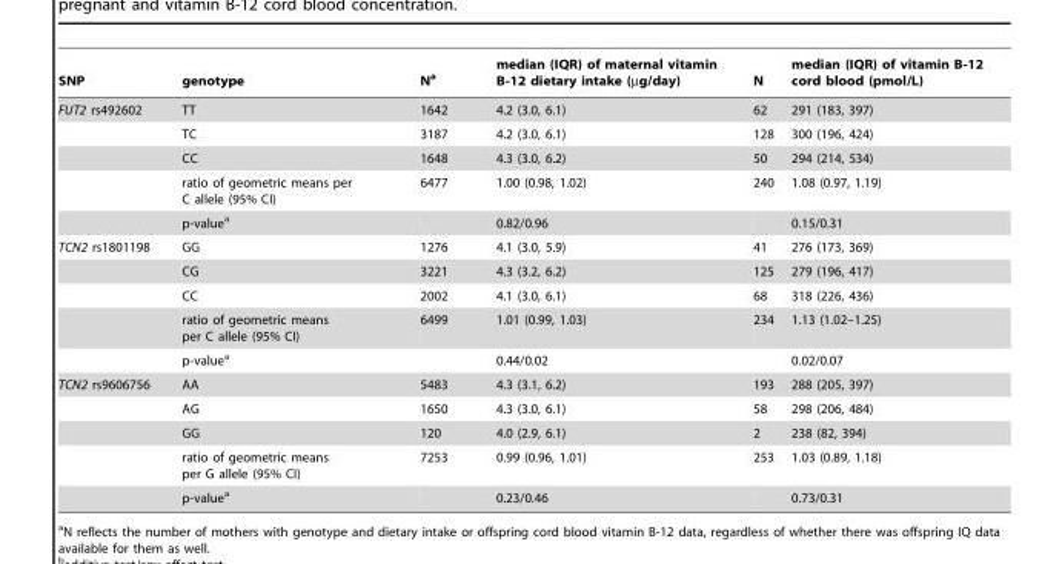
<table><thead><tr><td>SNP</td><td>genotype</td><td>N<sup>a</sup></td><td>median (IQR) of maternal vitamin B-12 dietary intake (µg/day)</td><td>N</td><td>median (IQR) of vitamin B-12 cord blood (pmol/L)</td></tr></thead><tbody><tr><td rowspan="5">FUT2 rs492602</td><td>TT</td><td>1642</td><td>4.2 (3.0, 6.1)</td><td>62</td><td>291 (183, 397)</td></tr><tr><td>TC</td><td>3187</td><td>4.2 (3.0, 6.1)</td><td>128</td><td>300 (196, 424)</td></tr><tr><td>CC</td><td>1648</td><td>4.3 (3.0, 6.2)</td><td>50</td><td>294 (214, 534)</td></tr><tr><td>ratio of geometric means per C allele (95% CI)</td><td>6477</td><td>1.00 (0.98, 1.02)</td><td>240</td><td>1.08 (0.97, 1.19)</td></tr><tr><td>p-value<sup>a</sup></td><td></td><td>0.82/0.96</td><td></td><td>0.15/0.31</td></tr><tr><td rowspan="5">TCN2 rs1801198</td><td>GG</td><td>1276</td><td>4.1 (3.0, 5.9)</td><td>41</td><td>276 (173, 369)</td></tr><tr><td>CG</td><td>3221</td><td>4.3 (3.2, 6.2)</td><td>125</td><td>279 (196, 417)</td></tr><tr><td>CC</td><td>2002</td><td>4.1 (3.0, 6.1)</td><td>68</td><td>318 (226, 436)</td></tr><tr><td>ratio of geometric means per C allele (95% CI)</td><td>6499</td><td>1.01 (0.99, 1.03)</td><td>234</td><td>1.13 (1.02–1.25)</td></tr><tr><td>p-value<sup>a</sup></td><td></td><td>0.44/0.02</td><td></td><td>0.02/0.07</td></tr><tr><td rowspan="5">TCN2 rs9606756</td><td>AA</td><td>5483</td><td>4.3 (3.1, 6.2)</td><td>193</td><td>288 (205, 397)</td></tr><tr><td>AG</td><td>1650</td><td>4.3 (3.0, 6.1)</td><td>58</td><td>298 (206, 484)</td></tr><tr><td>GG</td><td>120</td><td>4.0 (2.9, 6.1)</td><td>2</td><td>238 (82, 394)</td></tr><tr><td>ratio of geometric means per G allele (95% CI)</td><td>7253</td><td>0.99 (0.96, 1.01)</td><td>253</td><td>1.03 (0.89, 1.18)</td></tr><tr><td>p-value<sup>a</sup></td><td></td><td>0.23/0.46</td><td></td><td>0.73/0.31</td></tr></tbody></table>